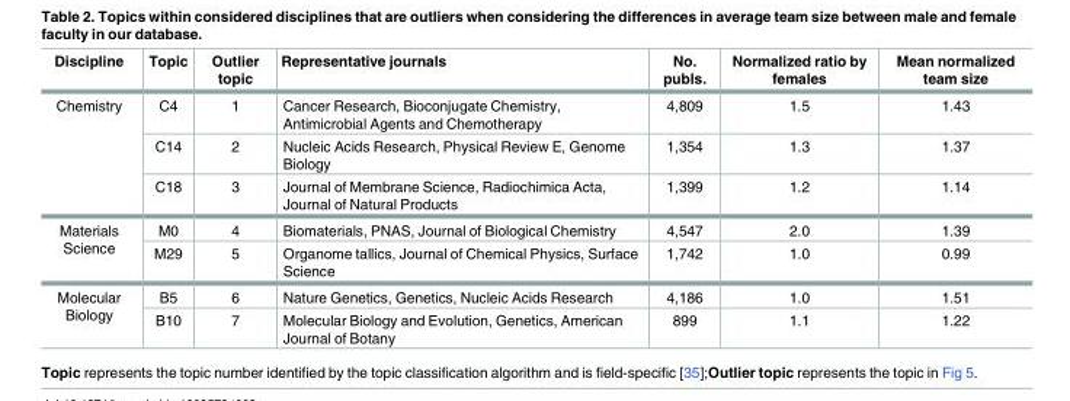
<table><thead><tr><td>Discipline</td><td>Topic</td><td>Outlier topic</td><td>Representative journals</td><td>No. publs.</td><td>Normalized ratio by females</td><td>Mean normalized team size</td></tr></thead><tbody><tr><td rowspan="3">Chemistry</td><td>C4</td><td>1</td><td>Cancer Research, Bioconjugate Chemistry, Antimicrobial Agents and Chemotherapy</td><td>4,809</td><td>1.5</td><td>1.43</td></tr><tr><td>C14</td><td>2</td><td>Nucleic Acids Research, Physical Review E, Genome Biology</td><td>1,354</td><td>1.3</td><td>1.37</td></tr><tr><td>C18</td><td>3</td><td>Journal of Membrane Science, Radiochimica Acta, Journal of Natural Products</td><td>1,399</td><td>1.2</td><td>1.14</td></tr><tr><td rowspan="2">Materials Science</td><td>M0</td><td>4</td><td>Biomaterials, PNAS, Journal of Biological Chemistry</td><td>4,547</td><td>2.0</td><td>1.39</td></tr><tr><td>M29</td><td>5</td><td>Organome tallics, Journal of Chemical Physics, Surface Science</td><td>1,742</td><td>1.0</td><td>0.99</td></tr><tr><td rowspan="2">Molecular Biology</td><td>B5</td><td>6</td><td>Nature Genetics, Genetics, Nucleic Acids Research</td><td>4,186</td><td>1.0</td><td>1.51</td></tr><tr><td>B10</td><td>7</td><td>Molecular Biology and Evolution, Genetics, American Journal of Botany</td><td>899</td><td>1.1</td><td>1.22</td></tr></tbody></table>